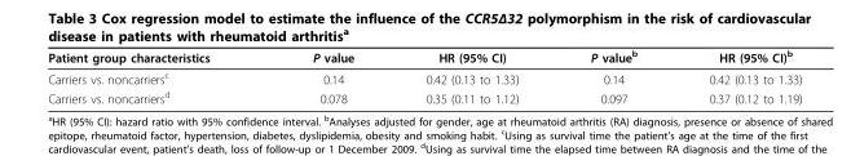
<table><thead><tr><td>Patient group characteristics</td><td>P value</td><td>HR (95% CI)</td><td>P value<sup>b</sup></td><td>HR (95% CI)<sup>b</sup></td></tr></thead><tbody><tr><td>Carriers vs. noncarriers<sup>c</sup></td><td>0.14</td><td>0.42 (0.13 to 1.33)</td><td>0.14</td><td>0.42 (0.13 to 1.33)</td></tr><tr><td>Carriers vs. noncarriers<sup>d</sup></td><td>0.078</td><td>0.35 (0.11 to 1.12)</td><td>0.097</td><td>0.37 (0.12 to 1.19)</td></tr></tbody></table>